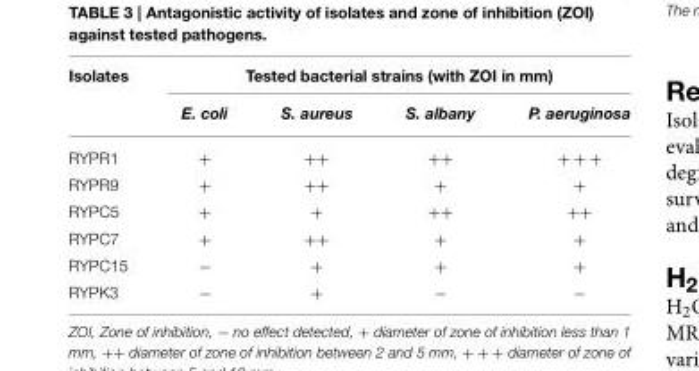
<table><thead><tr><td rowspan="2">Isolates</td><td colspan="4">Tested bacterial strains (with ZOI in mm)</td></tr><tr><td>E. coli</td><td>S. aureus</td><td>S. albany</td><td>P. aeruginosa</td></tr></thead><tbody><tr><td>RYPR1</td><td>+</td><td>++</td><td>++</td><td>+ + +</td></tr><tr><td>RYPR9</td><td>+</td><td>++</td><td>+</td><td>+</td></tr><tr><td>RYPC5</td><td>+</td><td>+</td><td>++</td><td>++</td></tr><tr><td>RYPC7</td><td>+</td><td>++</td><td>+</td><td>+</td></tr><tr><td>RYPC15</td><td>−</td><td>+</td><td>+</td><td>+</td></tr><tr><td>RYPK3</td><td>−</td><td>+</td><td>−</td><td>−</td></tr></tbody></table>